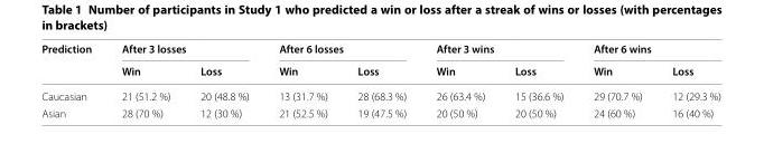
<table><thead><tr><td rowspan="2">Prediction</td><td colspan="2">After 3 losses</td><td colspan="2">After 6 losses</td><td colspan="2">After 3 wins</td><td colspan="2">After 6 wins</td></tr><tr><td>Win</td><td>Loss</td><td>Win</td><td>Loss</td><td>Win</td><td>Loss</td><td>Win</td><td>Loss</td></tr></thead><tbody><tr><td>Caucasian</td><td>21 (51.2 %)</td><td>20 (48.8 %)</td><td>13 (31.7 %)</td><td>28 (68.3 %)</td><td>26 (63.4 %)</td><td>15 (36.6 %)</td><td>29 (70.7 %)</td><td>12 (29.3 %)</td></tr><tr><td>Asian</td><td>28 (70 %)</td><td>12 (30 %)</td><td>21 (52.5 %)</td><td>19 (47.5 %)</td><td>20 (50 %)</td><td>20 (50 %)</td><td>24 (60 %)</td><td>16 (40 %)</td></tr></tbody></table>